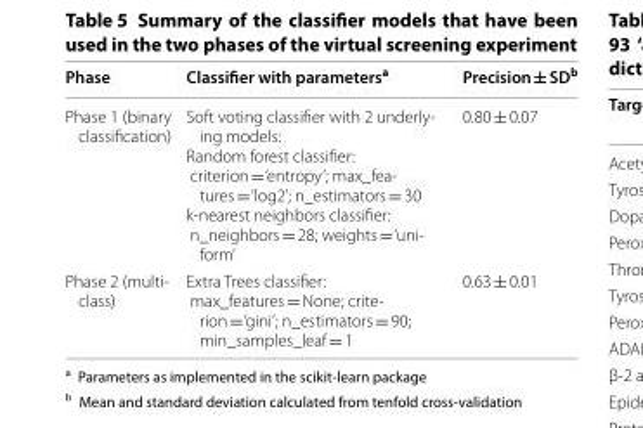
<table><thead><tr><td>Phase</td><td>Classifier with parameters<sup>a</sup></td><td>Precision ± SD<sup>b</sup></td></tr></thead><tbody><tr><td>Phase 1 (binary classification)</td><td>Soft voting classifier with 2 underly- ing models: Random forest classifier: criterion = ‘entropy’; max_fea- tures = ‘log2’; n_estimators = 30 k-nearest neighbors classifier: n_neighbors = 28; weights = ‘uni- form’</td><td>0.80 ± 0.07</td></tr><tr><td>Phase 2 (multi- class)</td><td>Extra Trees classifier: max_features = None; crite- rion = ‘gini’; n_estimators = 90; min_samples_leaf = 1</td><td>0.63 ± 0.01</td></tr></tbody></table>